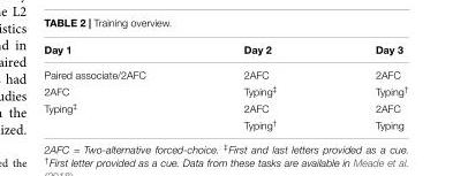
<table><thead><tr><td>Day 1</td><td>Day 2</td><td>Day 3</td></tr></thead><tbody><tr><td>Paired associate/2AFC</td><td>2AFC</td><td>2AFC</td></tr><tr><td>2AFC</td><td>Typing<sup>‡</sup></td><td>Typing<sup>†</sup></td></tr><tr><td rowspan="2">Typing<sup>‡</sup></td><td>2AFC</td><td>2AFC</td></tr><tr><td>Typing<sup>†</sup></td><td>Typing</td></tr></tbody></table>